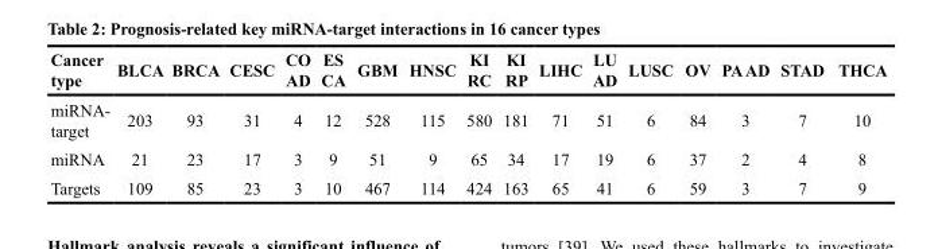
<table><thead><tr><td>Cancer type</td><td>BLCA</td><td>BRCA</td><td>CESC</td><td>CO AD</td><td>ES CA</td><td>GBM</td><td>HNSC</td><td>KI RC</td><td>KI RP</td><td>LIHC</td><td>LU AD</td><td>LUSC</td><td>OV</td><td>PA AD</td><td>STAD</td><td>THCA</td></tr></thead><tbody><tr><td>miRNA- target</td><td>203</td><td>93</td><td>31</td><td>4</td><td>12</td><td>528</td><td>115</td><td>580</td><td>181</td><td>71</td><td>51</td><td>6</td><td>84</td><td>3</td><td>7</td><td>10</td></tr><tr><td>miRNA</td><td>21</td><td>23</td><td>17</td><td>3</td><td>9</td><td>51</td><td>9</td><td>65</td><td>34</td><td>17</td><td>19</td><td>6</td><td>37</td><td>2</td><td>4</td><td>8</td></tr><tr><td>Targets</td><td>109</td><td>85</td><td>23</td><td>3</td><td>10</td><td>467</td><td>114</td><td>424</td><td>163</td><td>65</td><td>41</td><td>6</td><td>59</td><td>3</td><td>7</td><td>9</td></tr></tbody></table>